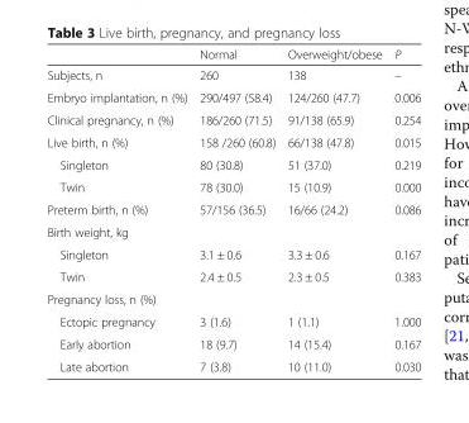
<table><thead><tr><td></td><td>Normal</td><td>Overweight/obese</td><td>P</td></tr></thead><tbody><tr><td>Subjects, n</td><td>260</td><td>138</td><td>–</td></tr><tr><td>Embryo implantation, n (%)</td><td>290/497 (58.4)</td><td>124/260 (47.7)</td><td>0.006</td></tr><tr><td>Clinical pregnancy, n (%)</td><td>186/260 (71.5)</td><td>91/138 (65.9)</td><td>0.254</td></tr><tr><td>Live birth, n (%)</td><td>158 /260 (60.8)</td><td>66/138 (47.8)</td><td>0.015</td></tr><tr><td>Singleton</td><td>80 (30.8)</td><td>51 (37.0)</td><td>0.219</td></tr><tr><td>Twin</td><td>78 (30.0)</td><td>15 (10.9)</td><td>0.000</td></tr><tr><td>Preterm birth, n (%)</td><td>57/156 (36.5)</td><td>16/66 (24.2)</td><td>0.086</td></tr><tr><td colspan="4">Birth weight, kg</td></tr><tr><td>Singleton</td><td>3.1 ± 0.6</td><td>3.3 ± 0.6</td><td>0.167</td></tr><tr><td>Twin</td><td>2.4 ± 0.5</td><td>2.3 ± 0.5</td><td>0.383</td></tr><tr><td colspan="4">Pregnancy loss, n (%)</td></tr><tr><td>Ectopic pregnancy</td><td>3 (1.6)</td><td>1 (1.1)</td><td>1.000</td></tr><tr><td>Early abortion</td><td>18 (9.7)</td><td>14 (15.4)</td><td>0.167</td></tr><tr><td>Late abortion</td><td>7 (3.8)</td><td>10 (11.0)</td><td>0.030</td></tr></tbody></table>